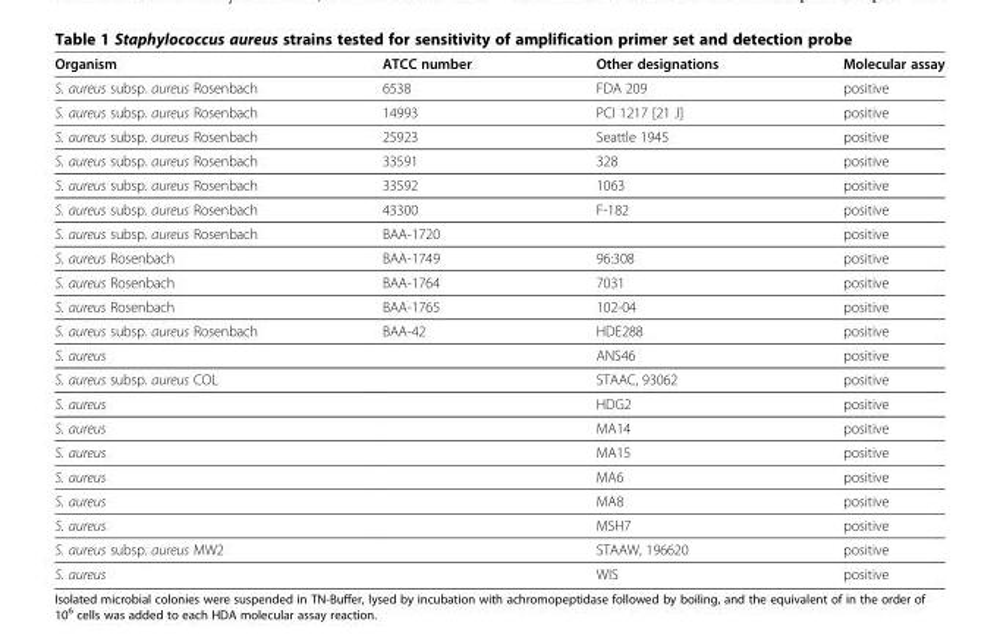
<table><thead><tr><td>Organism</td><td>ATCC number</td><td>Other designations</td><td>Molecular assay</td></tr></thead><tbody><tr><td>S. aureus subsp. aureus Rosenbach</td><td>6538</td><td>FDA 209</td><td>positive</td></tr><tr><td>S. aureus subsp. aureus Rosenbach</td><td>14993</td><td>PCI 1217 [21 J]</td><td>positive</td></tr><tr><td>S. aureus subsp. aureus Rosenbach</td><td>25923</td><td>Seattle 1945</td><td>positive</td></tr><tr><td>S. aureus subsp. aureus Rosenbach</td><td>33591</td><td>328</td><td>positive</td></tr><tr><td>S. aureus subsp. aureus Rosenbach</td><td>33592</td><td>1063</td><td>positive</td></tr><tr><td>S. aureus subsp. aureus Rosenbach</td><td>43300</td><td>F-182</td><td>positive</td></tr><tr><td>S. aureus subsp. aureus Rosenbach</td><td>BAA-1720</td><td></td><td>positive</td></tr><tr><td>S. aureus Rosenbach</td><td>BAA-1749</td><td>96:308</td><td>positive</td></tr><tr><td>S. aureus Rosenbach</td><td>BAA-1764</td><td>7031</td><td>positive</td></tr><tr><td>S. aureus Rosenbach</td><td>BAA-1765</td><td>102-04</td><td>positive</td></tr><tr><td>S. aureus subsp. aureus Rosenbach</td><td>BAA-42</td><td>HDE288</td><td>positive</td></tr><tr><td>S. aureus</td><td></td><td>ANS46</td><td>positive</td></tr><tr><td>S. aureus subsp. aureus COL</td><td></td><td>STAAC, 93062</td><td>positive</td></tr><tr><td>S. aureus</td><td></td><td>HDG2</td><td>positive</td></tr><tr><td>S. aureus</td><td></td><td>MA14</td><td>positive</td></tr><tr><td>S. aureus</td><td></td><td>MA15</td><td>positive</td></tr><tr><td>S. aureus</td><td></td><td>MA6</td><td>positive</td></tr><tr><td>S. aureus</td><td></td><td>MA8</td><td>positive</td></tr><tr><td>S. aureus</td><td></td><td>MSH7</td><td>positive</td></tr><tr><td>S. aureus subsp. aureus MW2</td><td></td><td>STAAW, 196620</td><td>positive</td></tr><tr><td>S. aureus</td><td></td><td>WIS</td><td>positive</td></tr></tbody></table>